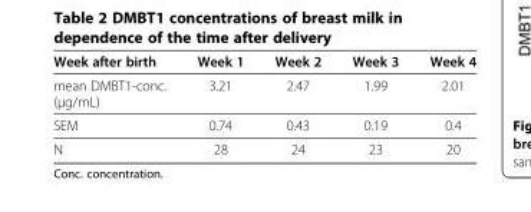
<table><thead><tr><td>Week after birth</td><td>Week 1</td><td>Week 2</td><td>Week 3</td><td>Week 4</td></tr></thead><tbody><tr><td>mean DMBT1-conc. (μg/mL)</td><td>3.21</td><td>2.47</td><td>1.99</td><td>2.01</td></tr><tr><td>SEM</td><td>0.74</td><td>0.43</td><td>0.19</td><td>0.4</td></tr><tr><td>N</td><td>28</td><td>24</td><td>23</td><td>20</td></tr></tbody></table>